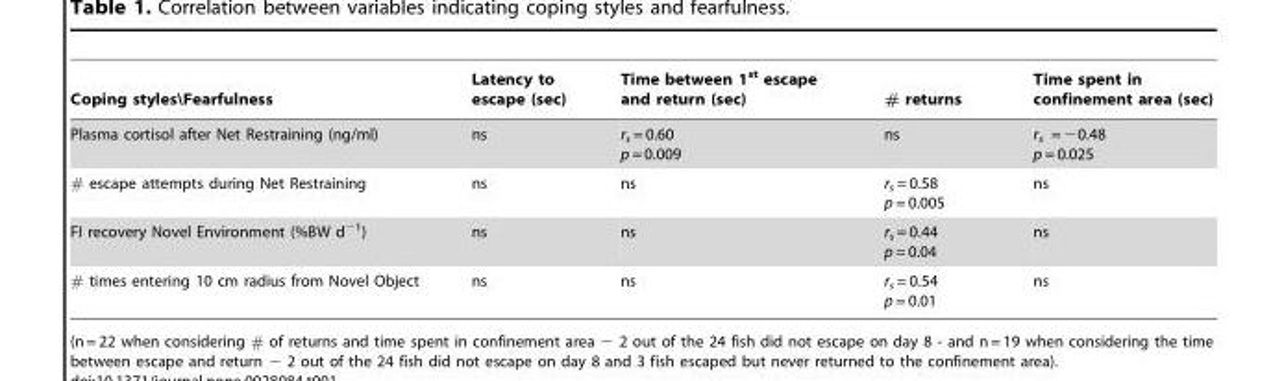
<table><thead><tr><td>Coping styles\Fearfulness</td><td>Latency to escape (sec)</td><td>Time between 1<sup>st</sup> escape and return (sec)</td><td># returns</td><td>Time spent in confinement area (sec)</td></tr></thead><tbody><tr><td>Plasma cortisol after Net Restraining (ng/ml)</td><td>ns</td><td>r<sub>s</sub> = 0.60 p = 0.009</td><td>ns</td><td>r<sub>s</sub> = −0.48 p = 0.025</td></tr><tr><td># escape attempts during Net Restraining</td><td>ns</td><td>ns</td><td>r<sub>s</sub> = 0.58 p = 0.005</td><td>ns</td></tr><tr><td>FI recovery Novel Environment (%BW d<sup>−1</sup>)</td><td>ns</td><td>ns</td><td>r<sub>s</sub> = 0.44 p = 0.04</td><td>ns</td></tr><tr><td># times entering 10 cm radius from Novel Object</td><td>ns</td><td>ns</td><td>r<sub>s</sub> = 0.54 p = 0.01</td><td>ns</td></tr></tbody></table>